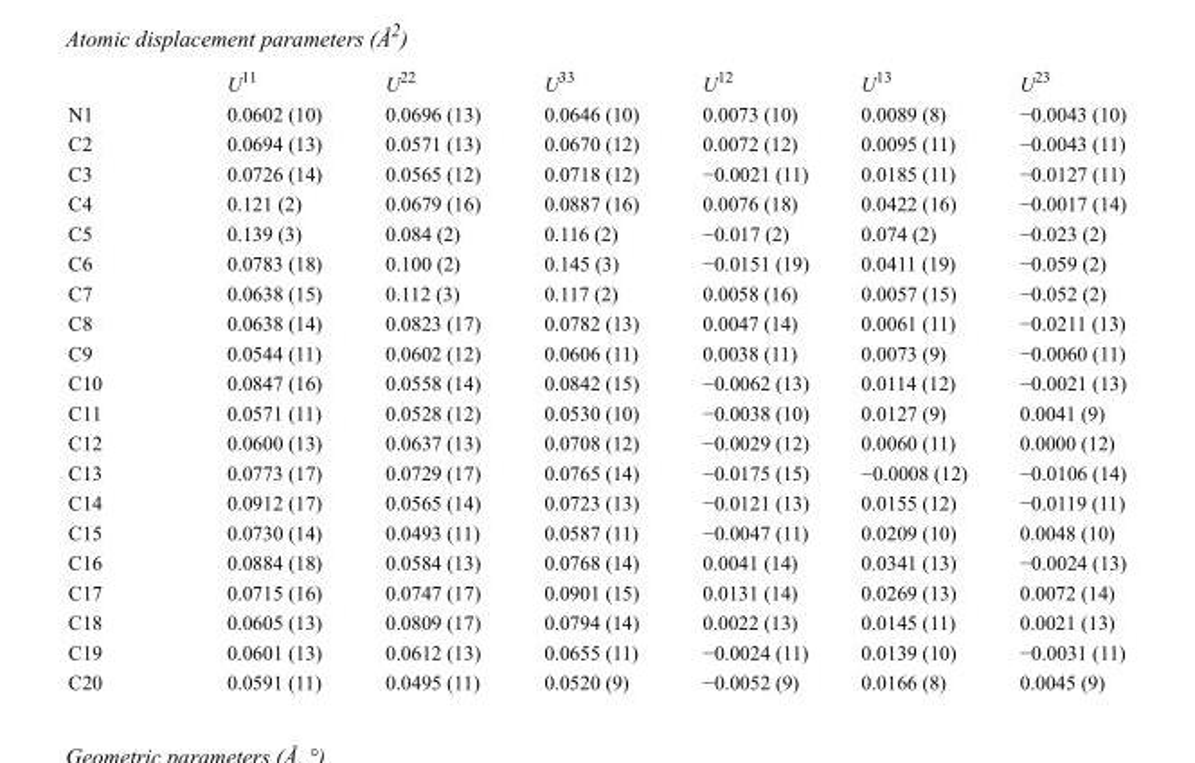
<table><thead><tr><td></td><td>U<sup>11</sup></td><td>U<sup>22</sup></td><td>U<sup>33</sup></td><td>U<sup>12</sup></td><td>U<sup>13</sup></td><td>U<sup>23</sup></td></tr></thead><tbody><tr><td>N1</td><td>0.0602 (10)</td><td>0.0696 (13)</td><td>0.0646 (10)</td><td>0.0073 (10)</td><td>0.0089 (8)</td><td>−0.0043 (10)</td></tr><tr><td>C2</td><td>0.0694 (13)</td><td>0.0571 (13)</td><td>0.0670 (12)</td><td>0.0072 (12)</td><td>0.0095 (11)</td><td>−0.0043 (11)</td></tr><tr><td>C3</td><td>0.0726 (14)</td><td>0.0565 (12)</td><td>0.0718 (12)</td><td>−0.0021 (11)</td><td>0.0185 (11)</td><td>−0.0127 (11)</td></tr><tr><td>C4</td><td>0.121 (2)</td><td>0.0679 (16)</td><td>0.0887 (16)</td><td>0.0076 (18)</td><td>0.0422 (16)</td><td>−0.0017 (14)</td></tr><tr><td>C5</td><td>0.139 (3)</td><td>0.084 (2)</td><td>0.116 (2)</td><td>−0.017 (2)</td><td>0.074 (2)</td><td>−0.023 (2)</td></tr><tr><td>C6</td><td>0.0783 (18)</td><td>0.100 (2)</td><td>0.145 (3)</td><td>−0.0151 (19)</td><td>0.0411 (19)</td><td>−0.059 (2)</td></tr><tr><td>C7</td><td>0.0638 (15)</td><td>0.112 (3)</td><td>0.117 (2)</td><td>0.0058 (16)</td><td>0.0057 (15)</td><td>−0.052 (2)</td></tr><tr><td>C8</td><td>0.0638 (14)</td><td>0.0823 (17)</td><td>0.0782 (13)</td><td>0.0047 (14)</td><td>0.0061 (11)</td><td>−0.0211 (13)</td></tr><tr><td>C9</td><td>0.0544 (11)</td><td>0.0602 (12)</td><td>0.0606 (11)</td><td>0.0038 (11)</td><td>0.0073 (9)</td><td>−0.0060 (11)</td></tr><tr><td>C10</td><td>0.0847 (16)</td><td>0.0558 (14)</td><td>0.0842 (15)</td><td>−0.0062 (13)</td><td>0.0114 (12)</td><td>−0.0021 (13)</td></tr><tr><td>C11</td><td>0.0571 (11)</td><td>0.0528 (12)</td><td>0.0530 (10)</td><td>−0.0038 (10)</td><td>0.0127 (9)</td><td>0.0041 (9)</td></tr><tr><td>C12</td><td>0.0600 (13)</td><td>0.0637 (13)</td><td>0.0708 (12)</td><td>−0.0029 (12)</td><td>0.0060 (11)</td><td>0.0000 (12)</td></tr><tr><td>C13</td><td>0.0773 (17)</td><td>0.0729 (17)</td><td>0.0765 (14)</td><td>−0.0175 (15)</td><td>−0.0008 (12)</td><td>−0.0106 (14)</td></tr><tr><td>C14</td><td>0.0912 (17)</td><td>0.0565 (14)</td><td>0.0723 (13)</td><td>−0.0121 (13)</td><td>0.0155 (12)</td><td>−0.0119 (11)</td></tr><tr><td>C15</td><td>0.0730 (14)</td><td>0.0493 (11)</td><td>0.0587 (11)</td><td>−0.0047 (11)</td><td>0.0209 (10)</td><td>0.0048 (10)</td></tr><tr><td>C16</td><td>0.0884 (18)</td><td>0.0584 (13)</td><td>0.0768 (14)</td><td>0.0041 (14)</td><td>0.0341 (13)</td><td>−0.0024 (13)</td></tr><tr><td>C17</td><td>0.0715 (16)</td><td>0.0747 (17)</td><td>0.0901 (15)</td><td>0.0131 (14)</td><td>0.0269 (13)</td><td>0.0072 (14)</td></tr><tr><td>C18</td><td>0.0605 (13)</td><td>0.0809 (17)</td><td>0.0794 (14)</td><td>0.0022 (13)</td><td>0.0145 (11)</td><td>0.0021 (13)</td></tr><tr><td>C19</td><td>0.0601 (13)</td><td>0.0612 (13)</td><td>0.0655 (11)</td><td>−0.0024 (11)</td><td>0.0139 (10)</td><td>−0.0031 (11)</td></tr><tr><td>C20</td><td>0.0591 (11)</td><td>0.0495 (11)</td><td>0.0520 (9)</td><td>−0.0052 (9)</td><td>0.0166 (8)</td><td>0.0045 (9)</td></tr></tbody></table>